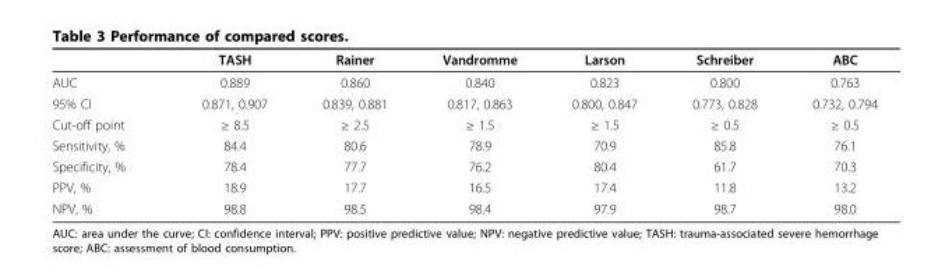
<table><thead><tr><td></td><td>TASH</td><td>Rainer</td><td>Vandromme</td><td>Larson</td><td>Schreiber</td><td>ABC</td></tr></thead><tbody><tr><td>AUC</td><td>0.889</td><td>0.860</td><td>0.840</td><td>0.823</td><td>0.800</td><td>0.763</td></tr><tr><td>95% CI</td><td>0.871, 0.907</td><td>0.839, 0.881</td><td>0.817, 0.863</td><td>0.800, 0.847</td><td>0.773, 0.828</td><td>0.732, 0.794</td></tr><tr><td>Cut-off point</td><td>≥ 8.5</td><td>≥ 2.5</td><td>≥ 1.5</td><td>≥ 1.5</td><td>≥ 0.5</td><td>≥ 0.5</td></tr><tr><td>Sensitivity, %</td><td>84.4</td><td>80.6</td><td>78.9</td><td>70.9</td><td>85.8</td><td>76.1</td></tr><tr><td>Specificity, %</td><td>78.4</td><td>77.7</td><td>76.2</td><td>80.4</td><td>61.7</td><td>70.3</td></tr><tr><td>PPV, %</td><td>18.9</td><td>17.7</td><td>16.5</td><td>17.4</td><td>11.8</td><td>13.2</td></tr><tr><td>NPV, %</td><td>98.8</td><td>98.5</td><td>98.4</td><td>97.9</td><td>98.7</td><td>98.0</td></tr></tbody></table>